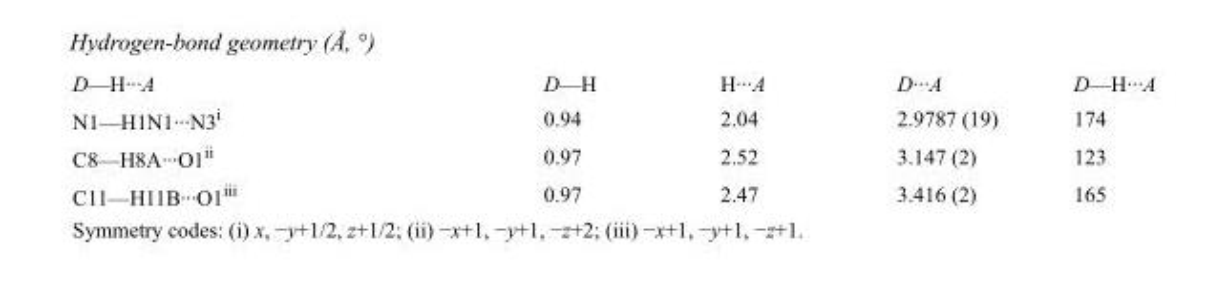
<table><tbody><tr><td>D—H···A</td><td>D—H</td><td>H···A</td><td>D···A</td><td>D—H···A</td></tr><tr><td>N1—H1N1···N3<sup>i</sup></td><td>0.94</td><td>2.04</td><td>2.9787 (19)</td><td>174</td></tr><tr><td>C8—H8A···O1<sup>ii</sup></td><td>0.97</td><td>2.52</td><td>3.147 (2)</td><td>123</td></tr><tr><td>C11—H11B···O1<sup>iii</sup></td><td>0.97</td><td>2.47</td><td>3.416 (2)</td><td>165</td></tr></tbody></table>